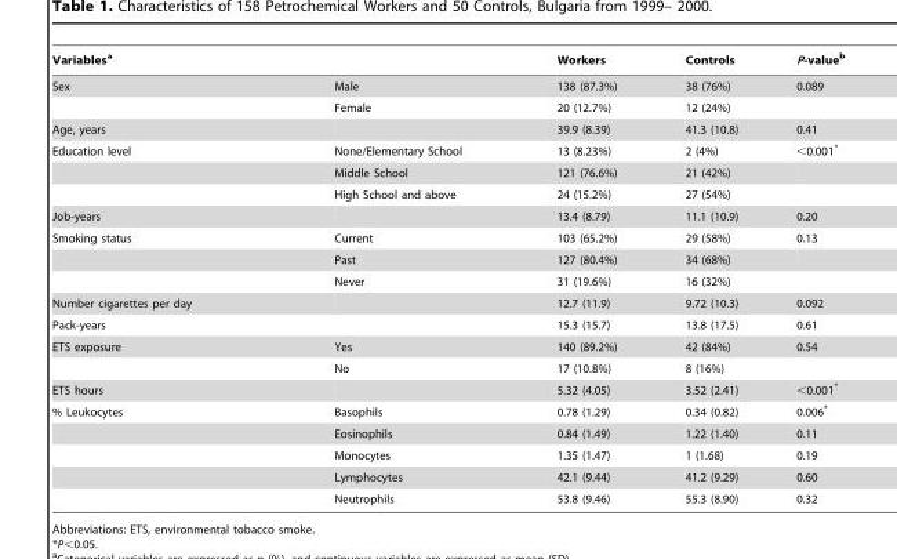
<table><thead><tr><td colspan="2">Variables<sup>a</sup></td><td rowspan="2">Workers 138 (87.3%)</td><td rowspan="2">Controls 38 (76%)</td><td rowspan="2">P-value<sup>b</sup> 0.089</td></tr><tr><td>Sex</td><td>Male</td></tr></thead><tbody><tr><td></td><td>Female</td><td>20 (12.7%)</td><td>12 (24%)</td><td></td></tr><tr><td>Age, years</td><td></td><td>39.9 (8.39)</td><td>41.3 (10.8)</td><td>0.41</td></tr><tr><td rowspan="3">Education level</td><td>None/Elementary School</td><td>13 (8.23%)</td><td>2 (4%)</td><td>&lt;0.001*</td></tr><tr><td>Middle School</td><td>121 (76.6%)</td><td>21 (42%)</td><td></td></tr><tr><td>High School and above</td><td>24 (15.2%)</td><td>27 (54%)</td><td></td></tr><tr><td>Job-years</td><td></td><td>13.4 (8.79)</td><td>11.1 (10.9)</td><td>0.20</td></tr><tr><td rowspan="3">Smoking status</td><td>Current</td><td>103 (65.2%)</td><td>29 (58%)</td><td>0.13</td></tr><tr><td>Past</td><td>127 (80.4%)</td><td>34 (68%)</td><td></td></tr><tr><td>Never</td><td>31 (19.6%)</td><td>16 (32%)</td><td></td></tr><tr><td>Number cigarettes per day</td><td></td><td>12.7 (11.9)</td><td>9.72 (10.3)</td><td>0.092</td></tr><tr><td>Pack-years</td><td></td><td>15.3 (15.7)</td><td>13.8 (17.5)</td><td>0.61</td></tr><tr><td rowspan="2">ETS exposure</td><td>Yes</td><td>140 (89.2%)</td><td>42 (84%)</td><td>0.54</td></tr><tr><td>No</td><td>17 (10.8%)</td><td>8 (16%)</td><td></td></tr><tr><td>ETS hours</td><td></td><td>5.32 (4.05)</td><td>3.52 (2.41)</td><td>&lt;0.001*</td></tr><tr><td rowspan="5">% Leukocytes</td><td>Basophils</td><td>0.78 (1.29)</td><td>0.34 (0.82)</td><td>0.006*</td></tr><tr><td>Eosinophils</td><td>0.84 (1.49)</td><td>1.22 (1.40)</td><td>0.11</td></tr><tr><td>Monocytes</td><td>1.35 (1.47)</td><td>1 (1.68)</td><td>0.19</td></tr><tr><td>Lymphocytes</td><td>42.1 (9.44)</td><td>41.2 (9.29)</td><td>0.60</td></tr><tr><td>Neutrophils</td><td>53.8 (9.46)</td><td>55.3 (8.90)</td><td>0.32</td></tr></tbody></table>